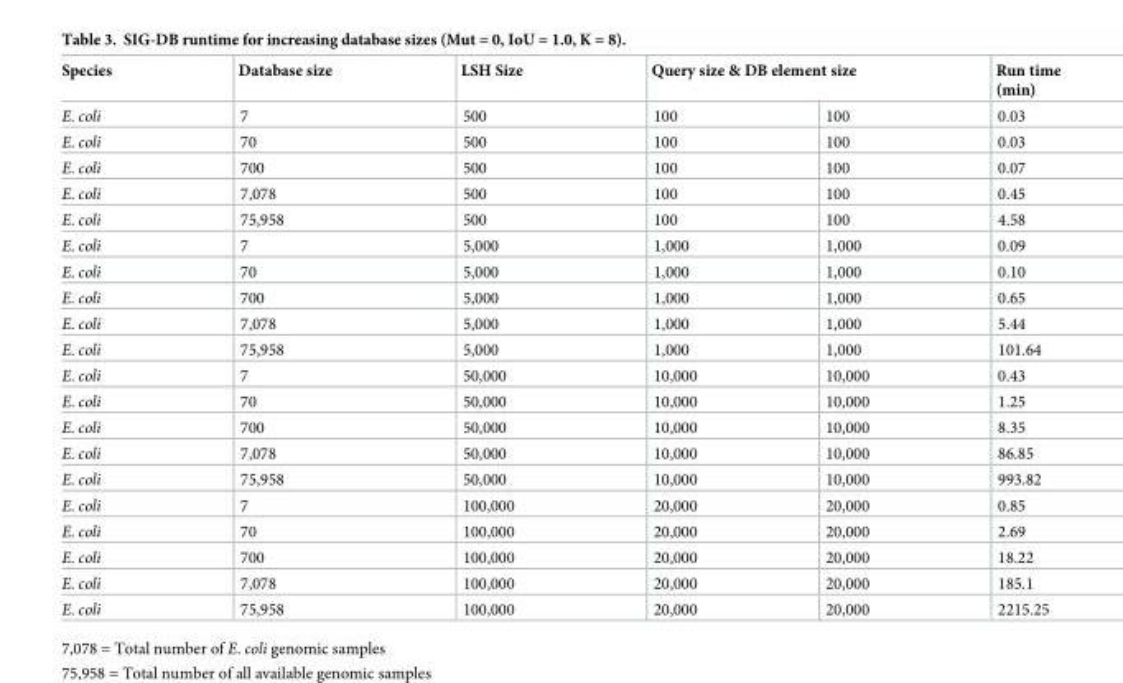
<table><thead><tr><td rowspan="2">Species E. coli</td><td rowspan="2">Database size 7</td><td rowspan="2">LSH Size 500</td><td colspan="2">Query size &amp; DB element size</td><td rowspan="2">Run time (min) 0.03</td></tr><tr><td>100</td><td>100</td></tr></thead><tbody><tr><td>E. coli</td><td>70</td><td>500</td><td>100</td><td>100</td><td>0.03</td></tr><tr><td>E. coli</td><td>700</td><td>500</td><td>100</td><td>100</td><td>0.07</td></tr><tr><td>E. coli</td><td>7,078</td><td>500</td><td>100</td><td>100</td><td>0.45</td></tr><tr><td>E. coli</td><td>75,958</td><td>500</td><td>100</td><td>100</td><td>4.58</td></tr><tr><td>E. coli</td><td>7</td><td>5,000</td><td>1,000</td><td>1,000</td><td>0.09</td></tr><tr><td>E. coli</td><td>70</td><td>5,000</td><td>1,000</td><td>1,000</td><td>0.10</td></tr><tr><td>E. coli</td><td>700</td><td>5,000</td><td>1,000</td><td>1,000</td><td>0.65</td></tr><tr><td>E. coli</td><td>7,078</td><td>5,000</td><td>1,000</td><td>1,000</td><td>5.44</td></tr><tr><td>E. coli</td><td>75,958</td><td>5,000</td><td>1,000</td><td>1,000</td><td>101.64</td></tr><tr><td>E. coli</td><td>7</td><td>50,000</td><td>10,000</td><td>10,000</td><td>0.43</td></tr><tr><td>E. coli</td><td>70</td><td>50,000</td><td>10,000</td><td>10,000</td><td>1.25</td></tr><tr><td>E. coli</td><td>700</td><td>50,000</td><td>10,000</td><td>10,000</td><td>8.35</td></tr><tr><td>E. coli</td><td>7,078</td><td>50,000</td><td>10,000</td><td>10,000</td><td>86.85</td></tr><tr><td>E. coli</td><td>75,958</td><td>50,000</td><td>10,000</td><td>10,000</td><td>993.82</td></tr><tr><td>E. coli</td><td>7</td><td>100,000</td><td>20,000</td><td>20,000</td><td>0.85</td></tr><tr><td>E. coli</td><td>70</td><td>100,000</td><td>20,000</td><td>20,000</td><td>2.69</td></tr><tr><td>E. coli</td><td>700</td><td>100,000</td><td>20,000</td><td>20,000</td><td>18.22</td></tr><tr><td>E. coli</td><td>7,078</td><td>100,000</td><td>20,000</td><td>20,000</td><td>185.1</td></tr><tr><td>E. coli</td><td>75,958</td><td>100,000</td><td>20,000</td><td>20,000</td><td>2215.25</td></tr></tbody></table>